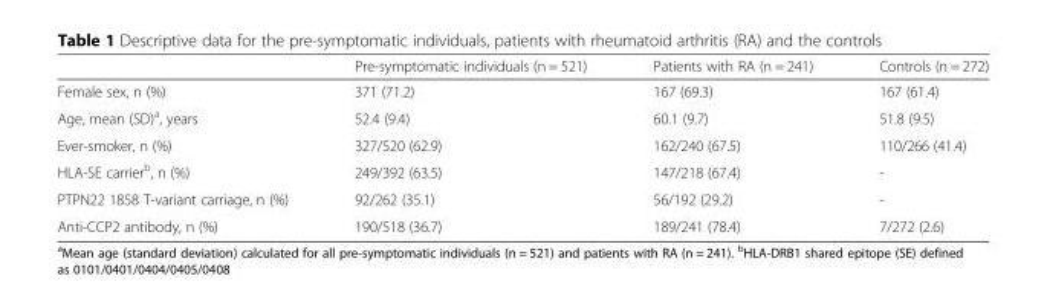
<table><thead><tr><td></td><td>Pre-symptomatic individuals (n = 521)</td><td>Patients with RA (n = 241)</td><td>Controls (n = 272)</td></tr></thead><tbody><tr><td>Female sex, n (%)</td><td>371 (71.2)</td><td>167 (69.3)</td><td>167 (61.4)</td></tr><tr><td>Age, mean (SD)<sup>a</sup>, years</td><td>52.4 (9.4)</td><td>60.1 (9.7)</td><td>51.8 (9.5)</td></tr><tr><td>Ever-smoker, n (%)</td><td>327/520 (62.9)</td><td>162/240 (67.5)</td><td>110/266 (41.4)</td></tr><tr><td>HLA-SE carrier<sup>b</sup>, n (%)</td><td>249/392 (63.5)</td><td>147/218 (67.4)</td><td>-</td></tr><tr><td>PTPN22 1858 T-variant carriage, n (%)</td><td>92/262 (35.1)</td><td>56/192 (29.2)</td><td>-</td></tr><tr><td>Anti-CCP2 antibody, n (%)</td><td>190/518 (36.7)</td><td>189/241 (78.4)</td><td>7/272 (2.6)</td></tr></tbody></table>